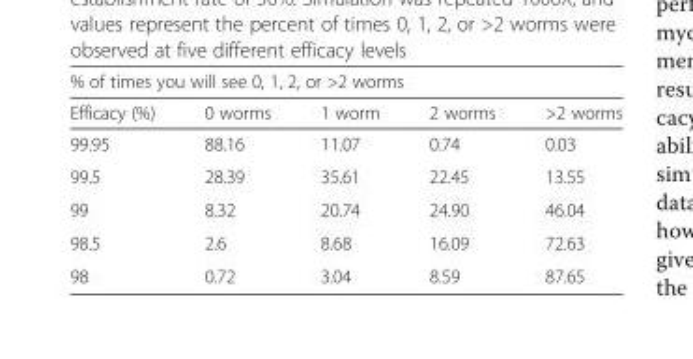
<table><thead><tr><td colspan="5">% of times you will see 0, 1, 2, or &gt;2 worms</td></tr><tr><td>Efficacy (%)</td><td>0 worms</td><td>1 worm</td><td>2 worms</td><td>&gt;2 worms</td></tr></thead><tbody><tr><td>99.95</td><td>88.16</td><td>11.07</td><td>0.74</td><td>0.03</td></tr><tr><td>99.5</td><td>28.39</td><td>35.61</td><td>22.45</td><td>13.55</td></tr><tr><td>99</td><td>8.32</td><td>20.74</td><td>24.90</td><td>46.04</td></tr><tr><td>98.5</td><td>2.6</td><td>8.68</td><td>16.09</td><td>72.63</td></tr><tr><td>98</td><td>0.72</td><td>3.04</td><td>8.59</td><td>87.65</td></tr></tbody></table>